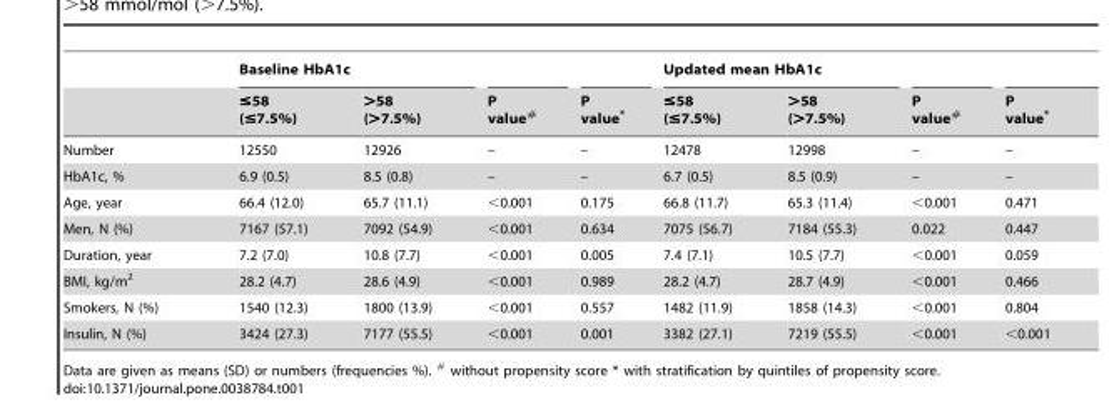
<table><thead><tr><td rowspan="2"></td><td colspan="2">Baseline HbA1c</td><td rowspan="2">P value<sup>#</sup></td><td rowspan="2">P value*</td><td colspan="2">Updated mean HbA1c</td><td rowspan="2">P value<sup>#</sup></td><td rowspan="2">P value*</td></tr><tr><td>≤58 (≤7.5%)</td><td>&gt;58 (&gt;7.5%)</td><td>≤58 (≤7.5%)</td><td>&gt;58 (&gt;7.5%)</td></tr></thead><tbody><tr><td>Number</td><td>12550</td><td>12926</td><td>–</td><td>–</td><td>12478</td><td>12998</td><td>–</td><td>–</td></tr><tr><td>HbA1c, %</td><td>6.9 (0.5)</td><td>8.5 (0.8)</td><td>–</td><td>–</td><td>6.7 (0.5)</td><td>8.5 (0.9)</td><td>–</td><td>–</td></tr><tr><td>Age, year</td><td>66.4 (12.0)</td><td>65.7 (11.1)</td><td>&lt;0.001</td><td>0.175</td><td>66.8 (11.7)</td><td>65.3 (11.4)</td><td>&lt;0.001</td><td>0.471</td></tr><tr><td>Men, N (%)</td><td>7167 (57.1)</td><td>7092 (54.9)</td><td>&lt;0.001</td><td>0.634</td><td>7075 (56.7)</td><td>7184 (55.3)</td><td>0.022</td><td>0.447</td></tr><tr><td>Duration, year</td><td>7.2 (7.0)</td><td>10.8 (7.7)</td><td>&lt;0.001</td><td>0.005</td><td>7.4 (7.1)</td><td>10.5 (7.7)</td><td>&lt;0.001</td><td>0.059</td></tr><tr><td>BMI, kg/m<sup>2</sup></td><td>28.2 (4.7)</td><td>28.6 (4.9)</td><td>&lt;0.001</td><td>0.989</td><td>28.2 (4.7)</td><td>28.7 (4.9)</td><td>&lt;0.001</td><td>0.466</td></tr><tr><td>Smokers, N (%)</td><td>1540 (12.3)</td><td>1800 (13.9)</td><td>&lt;0.001</td><td>0.557</td><td>1482 (11.9)</td><td>1858 (14.3)</td><td>&lt;0.001</td><td>0.804</td></tr><tr><td>Insulin, N (%)</td><td>3424 (27.3)</td><td>7177 (55.5)</td><td>&lt;0.001</td><td>0.001</td><td>3382 (27.1)</td><td>7219 (55.5)</td><td>&lt;0.001</td><td>&lt;0.001</td></tr></tbody></table>